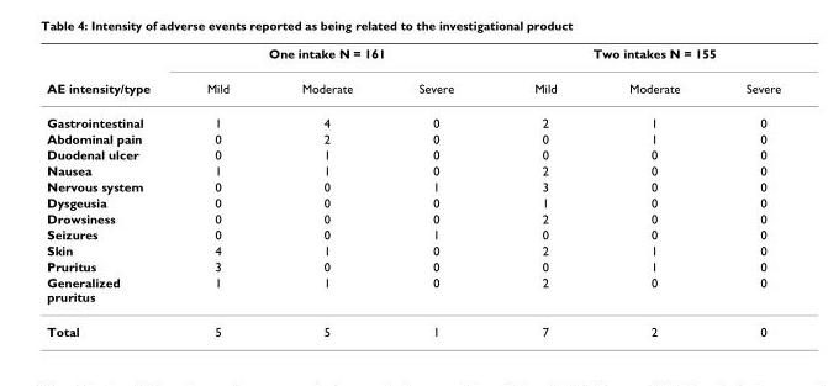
<table><thead><tr><td rowspan="2">AE intensity/type</td><td colspan="3">One intake N = 161</td><td colspan="3">Two intakes N = 155</td></tr><tr><td>Mild</td><td>Moderate</td><td>Severe</td><td>Mild</td><td>Moderate</td><td>Severe</td></tr></thead><tbody><tr><td>Gastrointestinal</td><td>1</td><td>4</td><td>0</td><td>2</td><td>1</td><td>0</td></tr><tr><td>Abdominal pain</td><td>0</td><td>2</td><td>0</td><td>0</td><td>1</td><td>0</td></tr><tr><td>Duodenal ulcer</td><td>0</td><td>1</td><td>0</td><td>0</td><td>0</td><td>0</td></tr><tr><td>Nausea</td><td>1</td><td>1</td><td>0</td><td>2</td><td>0</td><td>0</td></tr><tr><td>Nervous system</td><td>0</td><td>0</td><td>1</td><td>3</td><td>0</td><td>0</td></tr><tr><td>Dysgeusia</td><td>0</td><td>0</td><td>0</td><td>1</td><td>0</td><td>0</td></tr><tr><td>Drowsiness</td><td>0</td><td>0</td><td>0</td><td>2</td><td>0</td><td>0</td></tr><tr><td>Seizures</td><td>0</td><td>0</td><td>1</td><td>0</td><td>0</td><td>0</td></tr><tr><td>Skin</td><td>4</td><td>1</td><td>0</td><td>2</td><td>1</td><td>0</td></tr><tr><td>Pruritus</td><td>3</td><td>0</td><td>0</td><td>0</td><td>1</td><td>0</td></tr><tr><td>Generalized pruritus</td><td>1</td><td>1</td><td>0</td><td>2</td><td>0</td><td>0</td></tr><tr><td>Total</td><td>5</td><td>5</td><td>1</td><td>7</td><td>2</td><td>0</td></tr></tbody></table>